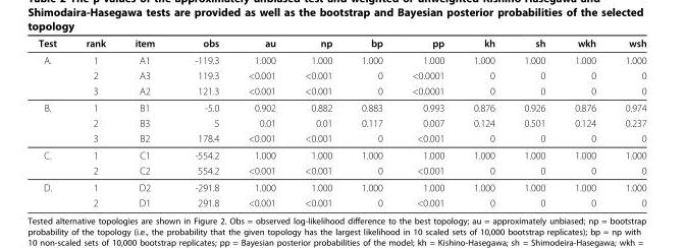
<table><thead><tr><td>Test</td><td>rank</td><td>item</td><td>obs</td><td>au</td><td>np</td><td>bp</td><td>pp</td><td>kh</td><td>sh</td><td>wkh</td><td>wsh</td></tr></thead><tbody><tr><td rowspan="3">A.</td><td>1</td><td>A1</td><td>-119.3</td><td>1.000</td><td>1.000</td><td>1.000</td><td>1.000</td><td>1.000</td><td>1.000</td><td>1.000</td><td>1.000</td></tr><tr><td>2</td><td>A3</td><td>119.3</td><td>&lt;0.001</td><td>&lt;0.001</td><td>0</td><td>&lt;0.0001</td><td>0</td><td>0</td><td>0</td><td>0</td></tr><tr><td>3</td><td>A2</td><td>121.3</td><td>&lt;0.001</td><td>&lt;0.001</td><td>0</td><td>&lt;0.0001</td><td>0</td><td>0</td><td>0</td><td>0</td></tr><tr><td rowspan="3">B.</td><td>1</td><td>B1</td><td>-5.0</td><td>0.902</td><td>0.882</td><td>0.883</td><td>0.993</td><td>0.876</td><td>0.926</td><td>0.876</td><td>0.974</td></tr><tr><td>2</td><td>B3</td><td>5</td><td>0.01</td><td>0.01</td><td>0.117</td><td>0.007</td><td>0.124</td><td>0.501</td><td>0.124</td><td>0.237</td></tr><tr><td>3</td><td>B2</td><td>178.4</td><td>&lt;0.001</td><td>&lt;0.001</td><td>0</td><td>&lt;0.001</td><td>0</td><td>0</td><td>0</td><td>0</td></tr><tr><td rowspan="2">C.</td><td>1</td><td>C1</td><td>-554.2</td><td>1.000</td><td>1.000</td><td>1.000</td><td>1.000</td><td>1.000</td><td>1.000</td><td>1.000</td><td>1.000</td></tr><tr><td>2</td><td>C2</td><td>554.2</td><td>&lt;0.001</td><td>&lt;0.001</td><td>0</td><td>&lt;0.001</td><td>0</td><td>0</td><td>0</td><td>0</td></tr><tr><td rowspan="2">D.</td><td>1</td><td>D2</td><td>-291.8</td><td>1.000</td><td>1.000</td><td>1.000</td><td>1.000</td><td>1.000</td><td>1.000</td><td>1.000</td><td>1.000</td></tr><tr><td>2</td><td>D1</td><td>291.8</td><td>&lt;0.001</td><td>&lt;0.001</td><td>0</td><td>&lt;0.001</td><td>0</td><td>0</td><td>0</td><td>0</td></tr></tbody></table>